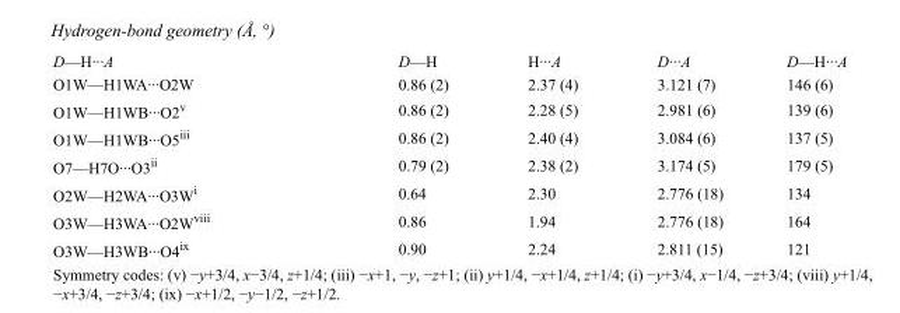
<table><tbody><tr><td>D—H···A</td><td>D—H</td><td>H···A</td><td>D···A</td><td>D—H···A</td></tr><tr><td>O1W—H1WA···O2W</td><td>0.86 (2)</td><td>2.37 (4)</td><td>3.121 (7)</td><td>146 (6)</td></tr><tr><td>O1W—H1WB···O2<sup>v</sup></td><td>0.86 (2)</td><td>2.28 (5)</td><td>2.981 (6)</td><td>139 (6)</td></tr><tr><td>O1W—H1WB···O5<sup>iii</sup></td><td>0.86 (2)</td><td>2.40 (4)</td><td>3.084 (6)</td><td>137 (5)</td></tr><tr><td>O7—H7O···O3<sup>ii</sup></td><td>0.79 (2)</td><td>2.38 (2)</td><td>3.174 (5)</td><td>179 (5)</td></tr><tr><td>O2W—H2WA···O3W<sup>i</sup></td><td>0.64</td><td>2.30</td><td>2.776 (18)</td><td>134</td></tr><tr><td>O3W—H3WA···O2W<sup>viii</sup></td><td>0.86</td><td>1.94</td><td>2.776 (18)</td><td>164</td></tr><tr><td>O3W—H3WB···O4<sup>ix</sup></td><td>0.90</td><td>2.24</td><td>2.811 (15)</td><td>121</td></tr></tbody></table>